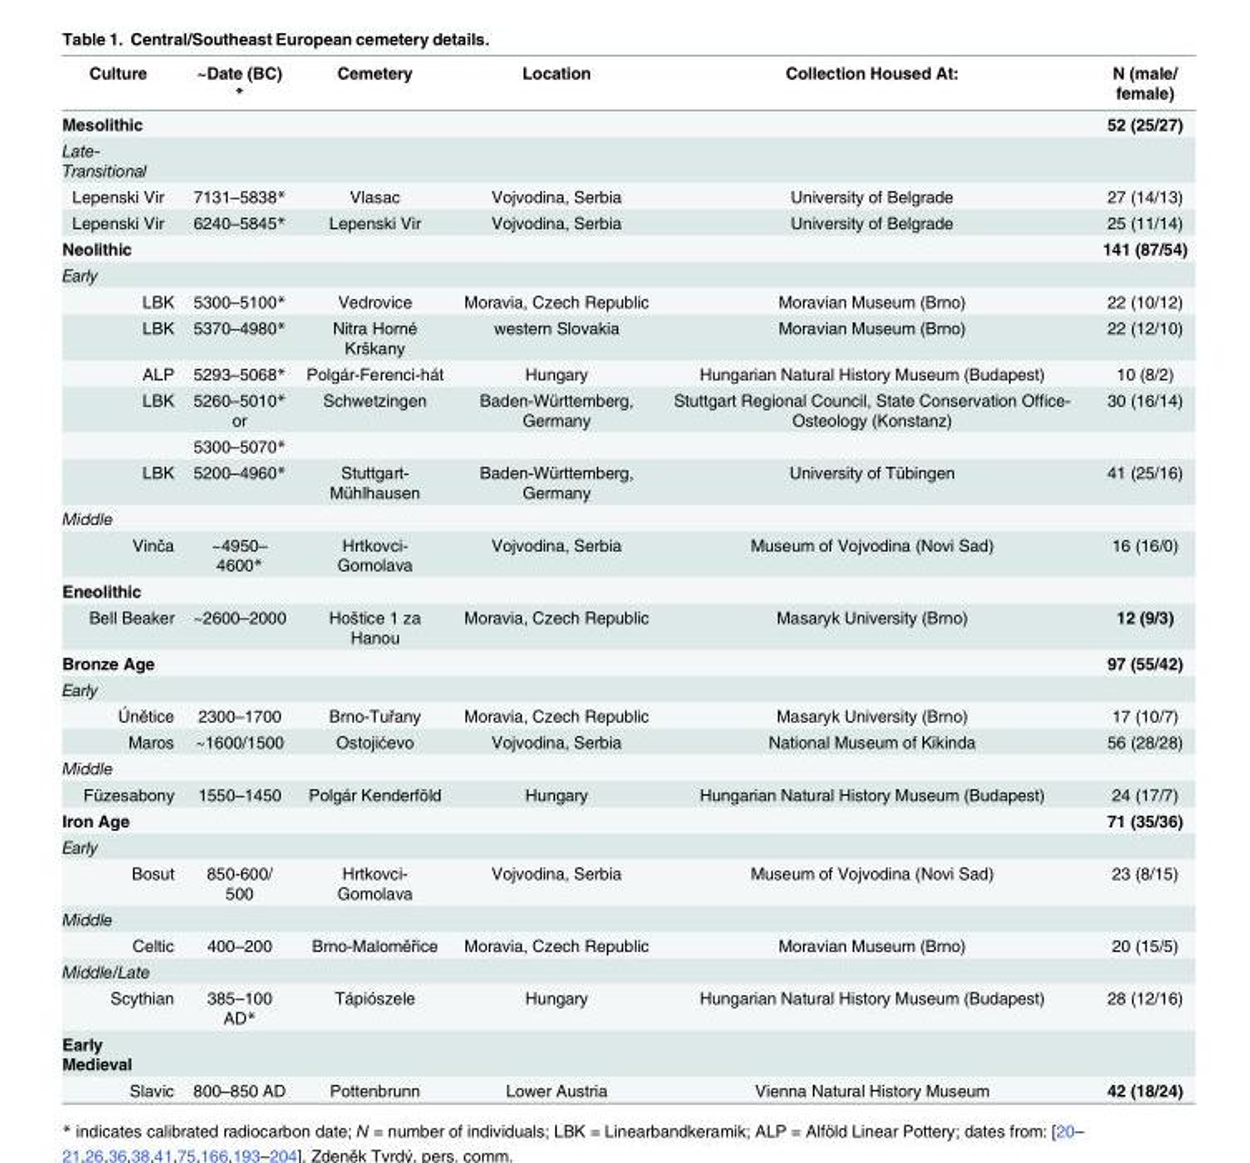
<table><thead><tr><td>Culture</td><td>~Date (BC) *</td><td>Cemetery</td><td>Location</td><td>Collection Housed At:</td><td>N (male/ female)</td></tr></thead><tbody><tr><td>Mesolithic</td><td></td><td></td><td></td><td></td><td>52 (25/27)</td></tr><tr><td colspan="6">Late- Transitional</td></tr><tr><td>Lepenski Vir</td><td>7131–5838*</td><td>Vlasac</td><td>Vojvodina, Serbia</td><td>University of Belgrade</td><td>27 (14/13)</td></tr><tr><td>Lepenski Vir</td><td>6240–5845*</td><td>Lepenski Vir</td><td>Vojvodina, Serbia</td><td>University of Belgrade</td><td>25 (11/14)</td></tr><tr><td>Neolithic</td><td></td><td></td><td></td><td></td><td>141 (87/54)</td></tr><tr><td colspan="6">Early</td></tr><tr><td>LBK</td><td>5300–5100*</td><td>Vedrovice</td><td>Moravia, Czech Republic</td><td>Moravian Museum (Brno)</td><td>22 (10/12)</td></tr><tr><td>LBK</td><td>5370–4980*</td><td>Nitra Horné Krškany</td><td>western Slovakia</td><td>Moravian Museum (Brno)</td><td>22 (12/10)</td></tr><tr><td>ALP</td><td>5293–5068*</td><td>Polgár-Ferenci-hát</td><td>Hungary</td><td>Hungarian Natural History Museum (Budapest)</td><td>10 (8/2)</td></tr><tr><td rowspan="2">LBK</td><td>5260–5010* or</td><td>Schwetzingen</td><td>Baden-Württemberg, Germany</td><td>Stuttgart Regional Council, State Conservation Office- Osteology (Konstanz)</td><td>30 (16/14)</td></tr><tr><td>5300–5070*</td><td></td><td></td><td></td><td></td></tr><tr><td>LBK</td><td>5200–4960*</td><td>Stuttgart- Mühlhausen</td><td>Baden-Württemberg, Germany</td><td>University of Tübingen</td><td>41 (25/16)</td></tr><tr><td colspan="6">Middle</td></tr><tr><td>Vinča</td><td>~4950– 4600*</td><td>Hrtkovci- Gomolava</td><td>Vojvodina, Serbia</td><td>Museum of Vojvodina (Novi Sad)</td><td>16 (16/0)</td></tr><tr><td colspan="6">Eneolithic</td></tr><tr><td>Bell Beaker</td><td>~2600–2000</td><td>Hoštice 1 za Hanou</td><td>Moravia, Czech Republic</td><td>Masaryk University (Brno)</td><td>12 (9/3)</td></tr><tr><td>Bronze Age</td><td></td><td></td><td></td><td></td><td>97 (55/42)</td></tr><tr><td colspan="6">Early</td></tr><tr><td>Únětice</td><td>2300–1700</td><td>Brno-Tuřany</td><td>Moravia, Czech Republic</td><td>Masaryk University (Brno)</td><td>17 (10/7)</td></tr><tr><td>Maros</td><td>~1600/1500</td><td>Ostojićevo</td><td>Vojvodina, Serbia</td><td>National Museum of Kikinda</td><td>56 (28/28)</td></tr><tr><td colspan="6">Middle</td></tr><tr><td>Füzesabony</td><td>1550–1450</td><td>Polgár Kenderföld</td><td>Hungary</td><td>Hungarian Natural History Museum (Budapest)</td><td>24 (17/7)</td></tr><tr><td>Iron Age</td><td></td><td></td><td></td><td></td><td>71 (35/36)</td></tr><tr><td colspan="6">Early</td></tr><tr><td>Bosut</td><td>850-600/ 500</td><td>Hrtkovci- Gomolava</td><td>Vojvodina, Serbia</td><td>Museum of Vojvodina (Novi Sad)</td><td>23 (8/15)</td></tr><tr><td colspan="6">Middle</td></tr><tr><td>Celtic</td><td>400–200</td><td>Brno-Maloměřice</td><td>Moravia, Czech Republic</td><td>Moravian Museum (Brno)</td><td>20 (15/5)</td></tr><tr><td colspan="6">Middle/Late</td></tr><tr><td>Scythian</td><td>385–100 AD*</td><td>Tápiószele</td><td>Hungary</td><td>Hungarian Natural History Museum (Budapest)</td><td>28 (12/16)</td></tr><tr><td colspan="6">Early Medieval</td></tr><tr><td>Slavic</td><td>800–850 AD</td><td>Pottenbrunn</td><td>Lower Austria</td><td>Vienna Natural History Museum</td><td>42 (18/24)</td></tr></tbody></table>